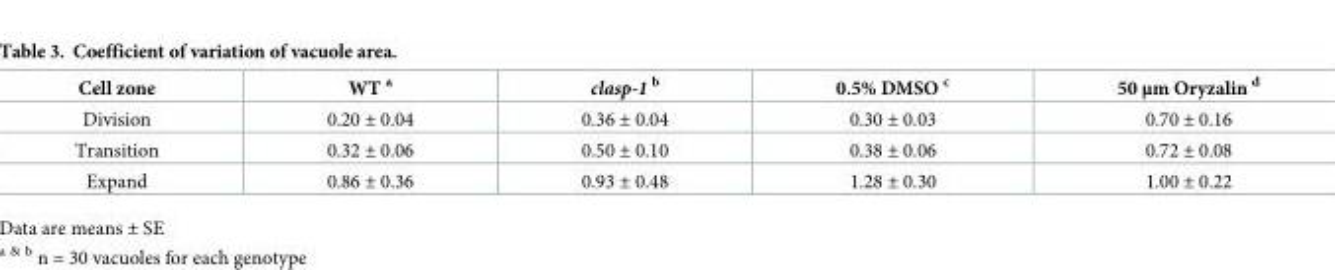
<table><thead><tr><td>Cell zone</td><td>WT <sup>a</sup></td><td>clasp-1 <sup>b</sup></td><td>0.5% DMSO <sup>c</sup></td><td>50 μm Oryzalin <sup>d</sup></td></tr></thead><tbody><tr><td>Division</td><td>0.20 ± 0.04</td><td>0.36 ± 0.04</td><td>0.30 ± 0.03</td><td>0.70 ± 0.16</td></tr><tr><td>Transition</td><td>0.32 ± 0.06</td><td>0.50 ± 0.10</td><td>0.38 ± 0.06</td><td>0.72 ± 0.08</td></tr><tr><td>Expand</td><td>0.86 ± 0.36</td><td>0.93 ± 0.48</td><td>1.28 ± 0.30</td><td>1.00 ± 0.22</td></tr></tbody></table>